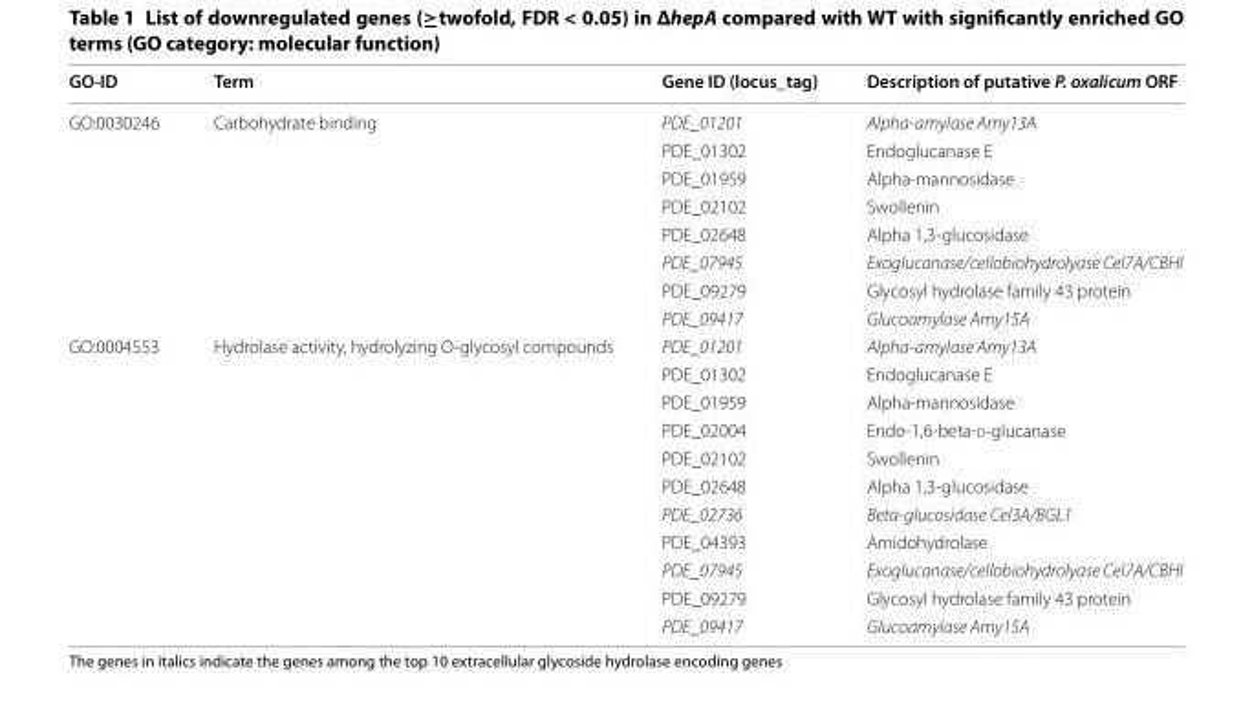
<table><thead><tr><td>GO-ID</td><td>Term</td><td>Gene ID (locus_tag)</td><td>Description of putative P. oxalicum ORF</td></tr></thead><tbody><tr><td rowspan="8">GO:0030246</td><td rowspan="7">Carbohydrate binding</td><td>PDE_01201</td><td>Alpha-amylase Amy13A</td></tr><tr><td>PDE_01302</td><td>Endoglucanase E</td></tr><tr><td>PDE_01959</td><td>Alpha-mannosidase</td></tr><tr><td>PDE_02102</td><td>Swollenin</td></tr><tr><td>PDE_02648</td><td>Alpha 1,3-glucosidase</td></tr><tr><td>PDE_07945</td><td>Exoglucanase/cellobiohydrolyase Cel7A/CBHI</td></tr><tr><td>PDE_09279</td><td>Glycosyl hydrolase family 43 protein</td></tr><tr><td></td><td>PDE_09417</td><td>Glucoamylase Amy15A</td></tr><tr><td rowspan="11">GO:0004553</td><td rowspan="11">Hydrolase activity, hydrolyzing O-glycosyl compounds</td><td>PDE_01201</td><td>Alpha-amylase Amy13A</td></tr><tr><td>PDE_01302</td><td>Endoglucanase E</td></tr><tr><td>PDE_01959</td><td>Alpha-mannosidase</td></tr><tr><td>PDE_02004</td><td>Endo-1,6-beta-d-glucanase</td></tr><tr><td>PDE_02102</td><td>Swollenin</td></tr><tr><td>PDE_02648</td><td>Alpha 1,3-glucosidase</td></tr><tr><td>PDE_02736</td><td>Beta-glucosidase Cel3A/BGL1</td></tr><tr><td>PDE_04393</td><td>Amidohydrolase</td></tr><tr><td>PDE_07945</td><td>Exoglucanase/cellobiohydrolyase Cel7A/CBHI</td></tr><tr><td>PDE_09279</td><td>Glycosyl hydrolase family 43 protein</td></tr><tr><td>PDE_09417</td><td>Glucoamylase Amy15A</td></tr></tbody></table>